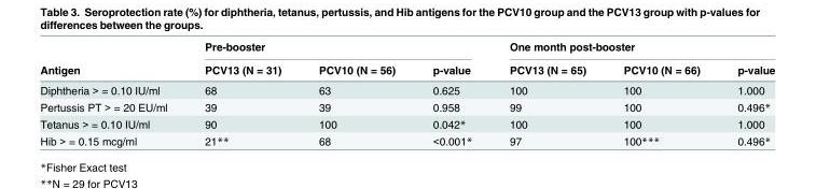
<table><thead><tr><td rowspan="2">Antigen</td><td colspan="3">Pre-booster</td><td colspan="3">One month post-booster</td></tr><tr><td>PCV13 (N = 31)</td><td>PCV10 (N = 56)</td><td>p-value</td><td>PCV13 (N = 65)</td><td>PCV10 (N = 66)</td><td>p-value</td></tr></thead><tbody><tr><td>Diphtheria &gt; = 0.10 IU/ml</td><td>68</td><td>63</td><td>0.625</td><td>100</td><td>100</td><td>1.000</td></tr><tr><td>Pertussis PT &gt; = 20 EU/ml</td><td>39</td><td>39</td><td>0.958</td><td>99</td><td>100</td><td>0.496*</td></tr><tr><td>Tetanus &gt; = 0.10 IU/ml</td><td>90</td><td>100</td><td>0.042*</td><td>100</td><td>100</td><td>1.000</td></tr><tr><td>Hib &gt; = 0.15 mcg/ml</td><td>21**</td><td>68</td><td>&lt;0.001*</td><td>97</td><td>100***</td><td>0.496*</td></tr></tbody></table>